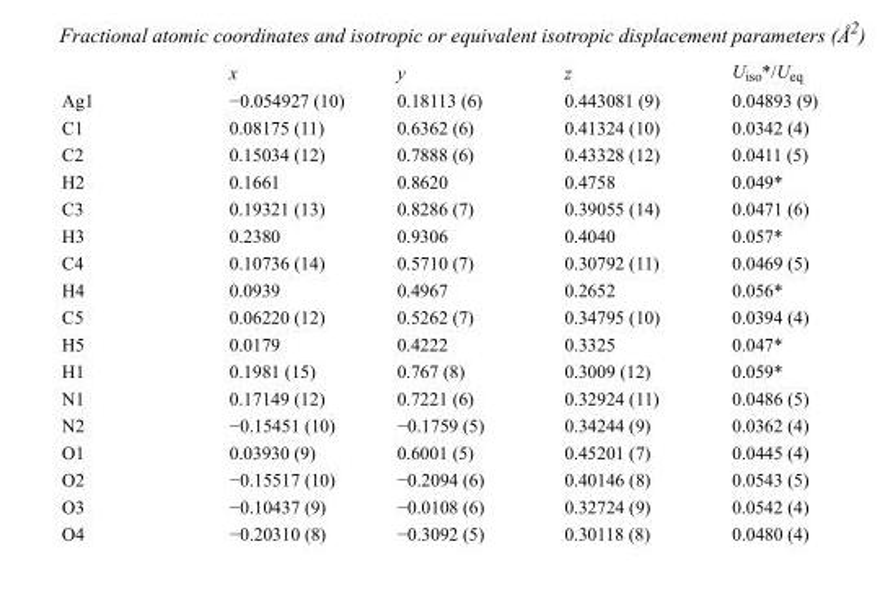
<table><thead><tr><td></td><td>x</td><td>y</td><td>z</td><td>U<sub>iso</sub>*/U<sub>eq</sub></td></tr></thead><tbody><tr><td>Ag1</td><td>−0.054927 (10)</td><td>0.18113 (6)</td><td>0.443081 (9)</td><td>0.04893 (9)</td></tr><tr><td>C1</td><td>0.08175 (11)</td><td>0.6362 (6)</td><td>0.41324 (10)</td><td>0.0342 (4)</td></tr><tr><td>C2</td><td>0.15034 (12)</td><td>0.7888 (6)</td><td>0.43328 (12)</td><td>0.0411 (5)</td></tr><tr><td>H2</td><td>0.1661</td><td>0.8620</td><td>0.4758</td><td>0.049*</td></tr><tr><td>C3</td><td>0.19321 (13)</td><td>0.8286 (7)</td><td>0.39055 (14)</td><td>0.0471 (6)</td></tr><tr><td>H3</td><td>0.2380</td><td>0.9306</td><td>0.4040</td><td>0.057*</td></tr><tr><td>C4</td><td>0.10736 (14)</td><td>0.5710 (7)</td><td>0.30792 (11)</td><td>0.0469 (5)</td></tr><tr><td>H4</td><td>0.0939</td><td>0.4967</td><td>0.2652</td><td>0.056*</td></tr><tr><td>C5</td><td>0.06220 (12)</td><td>0.5262 (7)</td><td>0.34795 (10)</td><td>0.0394 (4)</td></tr><tr><td>H5</td><td>0.0179</td><td>0.4222</td><td>0.3325</td><td>0.047*</td></tr><tr><td>H1</td><td>0.1981 (15)</td><td>0.767 (8)</td><td>0.3009 (12)</td><td>0.059*</td></tr><tr><td>N1</td><td>0.17149 (12)</td><td>0.7221 (6)</td><td>0.32924 (11)</td><td>0.0486 (5)</td></tr><tr><td>N2</td><td>−0.15451 (10)</td><td>−0.1759 (5)</td><td>0.34244 (9)</td><td>0.0362 (4)</td></tr><tr><td>O1</td><td>0.03930 (9)</td><td>0.6001 (5)</td><td>0.45201 (7)</td><td>0.0445 (4)</td></tr><tr><td>O2</td><td>−0.15517 (10)</td><td>−0.2094 (6)</td><td>0.40146 (8)</td><td>0.0543 (5)</td></tr><tr><td>O3</td><td>−0.10437 (9)</td><td>−0.0108 (6)</td><td>0.32724 (9)</td><td>0.0542 (4)</td></tr><tr><td>O4</td><td>−0.20310 (8)</td><td>−0.3092 (5)</td><td>0.30118 (8)</td><td>0.0480 (4)</td></tr></tbody></table>